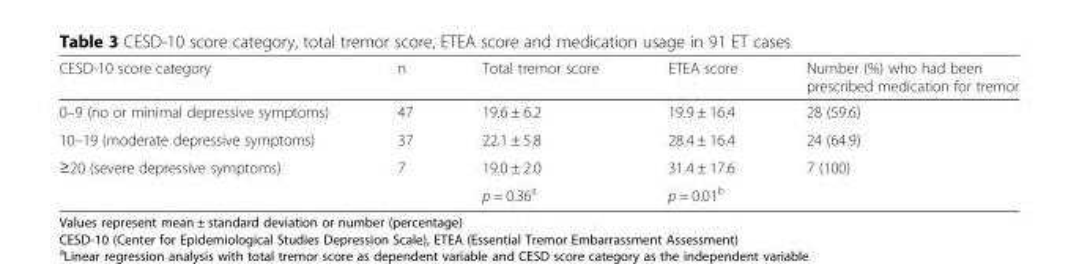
<table><thead><tr><td>CESD-10 score category</td><td>n</td><td>Total tremor score</td><td>ETEA score</td><td>Number (%) who had been prescribed medication for tremor</td></tr></thead><tbody><tr><td>0–9 (no or minimal depressive symptoms)</td><td>47</td><td>19.6 ± 6.2</td><td>19.9 ± 16.4</td><td>28 (59.6)</td></tr><tr><td>10–19 (moderate depressive symptoms)</td><td>37</td><td>22.1 ± 5.8</td><td>28.4 ± 16.4</td><td>24 (64.9)</td></tr><tr><td rowspan="2">≥20 (severe depressive symptoms)</td><td>7</td><td>19.0 ± 2.0</td><td>31.4 ± 17.6</td><td>7 (100)</td></tr><tr><td></td><td>p = 0.36<sup>a</sup></td><td>p = 0.01<sup>b</sup></td><td></td></tr></tbody></table>